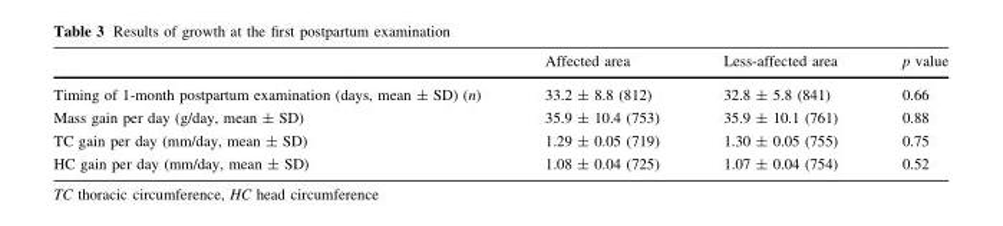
<table><thead><tr><td></td><td>Affected area</td><td>Less-affected area</td><td>p value</td></tr></thead><tbody><tr><td>Timing of 1-month postpartum examination (days, mean ± SD) (n)</td><td>33.2 ± 8.8 (812)</td><td>32.8 ± 5.8 (841)</td><td>0.66</td></tr><tr><td>Mass gain per day (g/day, mean ± SD)</td><td>35.9 ± 10.4 (753)</td><td>35.9 ± 10.1 (761)</td><td>0.88</td></tr><tr><td>TC gain per day (mm/day, mean ± SD)</td><td>1.29 ± 0.05 (719)</td><td>1.30 ± 0.05 (755)</td><td>0.75</td></tr><tr><td>HC gain per day (mm/day, mean ± SD)</td><td>1.08 ± 0.04 (725)</td><td>1.07 ± 0.04 (754)</td><td>0.52</td></tr></tbody></table>